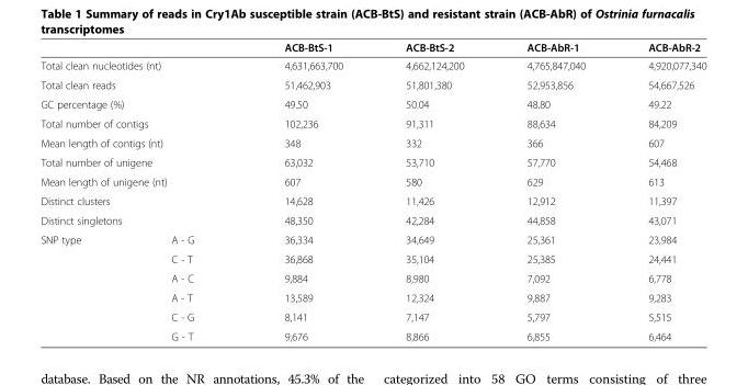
<table><thead><tr><td></td><td></td><td>ACB-BtS-1</td><td>ACB-BtS-2</td><td>ACB-AbR-1</td><td>ACB-AbR-2</td></tr></thead><tbody><tr><td colspan="2">Total clean nucleotides (nt)</td><td>4,631,663,700</td><td>4,662,124,200</td><td>4,765,847,040</td><td>4,920,077,340</td></tr><tr><td colspan="2">Total clean reads</td><td>51,462,903</td><td>51,801,380</td><td>52,953,856</td><td>54,667,526</td></tr><tr><td colspan="2">GC percentage (%)</td><td>49.50</td><td>50.04</td><td>48.80</td><td>49.22</td></tr><tr><td colspan="2">Total number of contigs</td><td>102,236</td><td>91,311</td><td>88,634</td><td>84,209</td></tr><tr><td colspan="2">Mean length of contigs (nt)</td><td>348</td><td>332</td><td>366</td><td>607</td></tr><tr><td colspan="2">Total number of unigene</td><td>63,032</td><td>53,710</td><td>57,770</td><td>54,468</td></tr><tr><td colspan="2">Mean length of unigene (nt)</td><td>607</td><td>580</td><td>629</td><td>613</td></tr><tr><td colspan="2">Distinct clusters</td><td>14,628</td><td>11,426</td><td>12,912</td><td>11,397</td></tr><tr><td colspan="2">Distinct singletons</td><td>48,350</td><td>42,284</td><td>44,858</td><td>43,071</td></tr><tr><td rowspan="6">SNP type</td><td>A - G</td><td>36,334</td><td>34,649</td><td>25,361</td><td>23,984</td></tr><tr><td>C - T</td><td>36,868</td><td>35,104</td><td>25,385</td><td>24,441</td></tr><tr><td>A - C</td><td>9,884</td><td>8,980</td><td>7,092</td><td>6,778</td></tr><tr><td>A - T</td><td>13,589</td><td>12,324</td><td>9,887</td><td>9,283</td></tr><tr><td>C - G</td><td>8,141</td><td>7,147</td><td>5,797</td><td>5,515</td></tr><tr><td>G - T</td><td>9,676</td><td>8,866</td><td>6,855</td><td>6,464</td></tr></tbody></table>